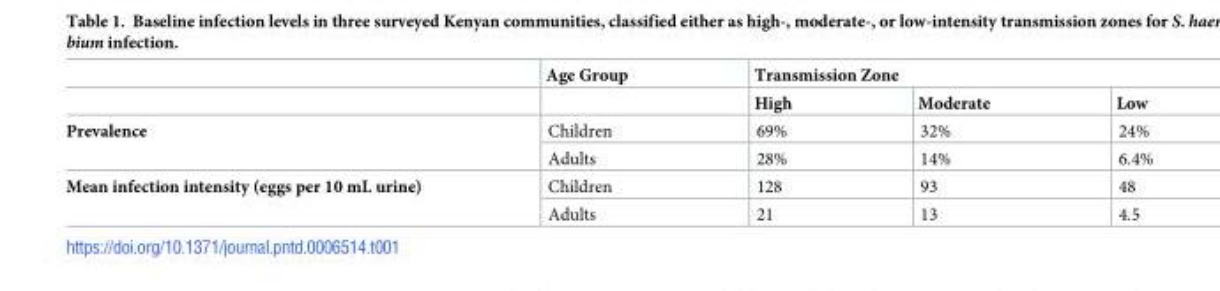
<table><thead><tr><td rowspan="2"></td><td rowspan="2">Age Group</td><td colspan="3">Transmission Zone</td></tr><tr><td>High</td><td>Moderate</td><td>Low</td></tr></thead><tbody><tr><td rowspan="2">Prevalence</td><td>Children</td><td>69%</td><td>32%</td><td>24%</td></tr><tr><td>Adults</td><td>28%</td><td>14%</td><td>6.4%</td></tr><tr><td rowspan="2">Mean infection intensity (eggs per 10 mL urine)</td><td>Children</td><td>128</td><td>93</td><td>48</td></tr><tr><td>Adults</td><td>21</td><td>13</td><td>4.5</td></tr></tbody></table>